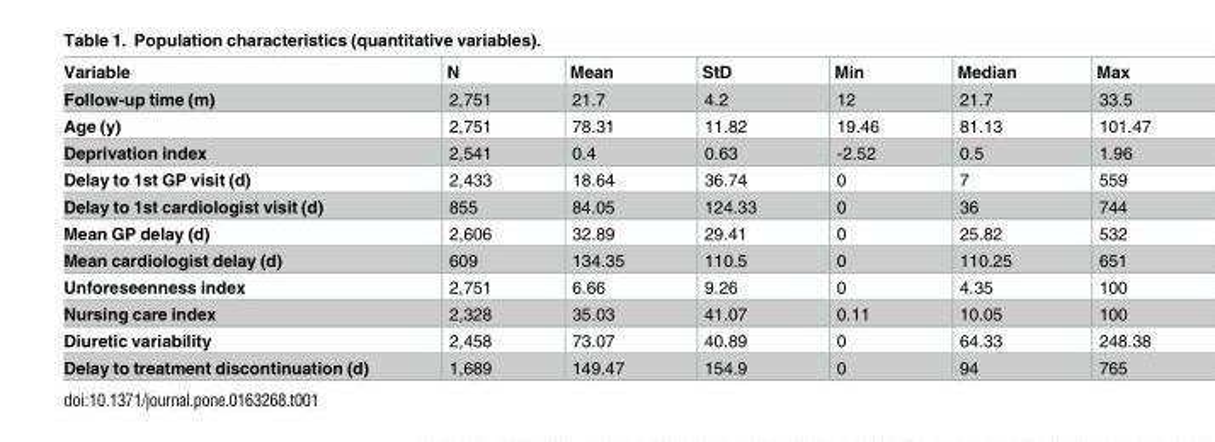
<table><thead><tr><td>Variable</td><td>N</td><td>Mean</td><td>StD</td><td>Min</td><td>Median</td><td>Max</td></tr></thead><tbody><tr><td>Follow-up time (m)</td><td>2,751</td><td>21.7</td><td>4.2</td><td>12</td><td>21.7</td><td>33.5</td></tr><tr><td>Age (y)</td><td>2,751</td><td>78.31</td><td>11.82</td><td>19.46</td><td>81.13</td><td>101.47</td></tr><tr><td>Deprivation index</td><td>2,541</td><td>0.4</td><td>0.63</td><td>-2.52</td><td>0.5</td><td>1.96</td></tr><tr><td>Delay to 1st GP visit (d)</td><td>2,433</td><td>18.64</td><td>36.74</td><td>0</td><td>7</td><td>559</td></tr><tr><td>Delay to 1st cardiologist visit (d)</td><td>855</td><td>84.05</td><td>124.33</td><td>0</td><td>36</td><td>744</td></tr><tr><td>Mean GP delay (d)</td><td>2,606</td><td>32.89</td><td>29.41</td><td>0</td><td>25.82</td><td>532</td></tr><tr><td>Mean cardiologist delay (d)</td><td>609</td><td>134.35</td><td>110.5</td><td>0</td><td>110.25</td><td>651</td></tr><tr><td>Unforeseenness index</td><td>2,751</td><td>6.66</td><td>9.26</td><td>0</td><td>4.35</td><td>100</td></tr><tr><td>Nursing care index</td><td>2,328</td><td>35.03</td><td>41.07</td><td>0.11</td><td>10.05</td><td>100</td></tr><tr><td>Diuretic variability</td><td>2,458</td><td>73.07</td><td>40.89</td><td>0</td><td>64.33</td><td>248.38</td></tr><tr><td>Delay to treatment discontinuation (d)</td><td>1,689</td><td>149.47</td><td>154.9</td><td>0</td><td>94</td><td>765</td></tr></tbody></table>